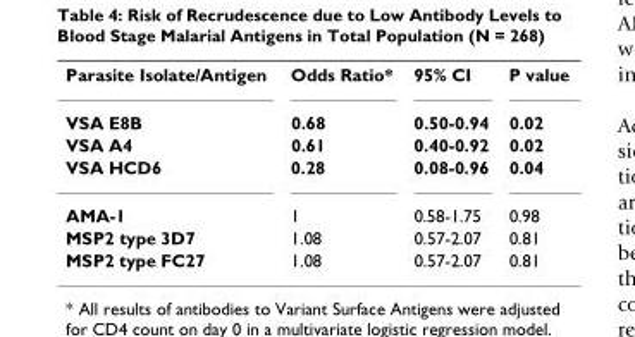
<table><tbody><tr><td>Parasite Isolate/Antigen</td><td>Odds Ratio*</td><td>95% CI</td><td>P value</td></tr><tr><td>VSA E8B</td><td>0.68</td><td>0.50-0.94</td><td>0.02</td></tr><tr><td>VSA A4</td><td>0.61</td><td>0.40-0.92</td><td>0.02</td></tr><tr><td>VSA HCD6</td><td>0.28</td><td>0.08-0.96</td><td>0.04</td></tr><tr><td>AMA-1</td><td>1</td><td>0.58-1.75</td><td>0.98</td></tr><tr><td>MSP2 type 3D7</td><td>1.08</td><td>0.57-2.07</td><td>0.81</td></tr><tr><td>MSP2 type FC27</td><td>1.08</td><td>0.57-2.07</td><td>0.81</td></tr></tbody></table>